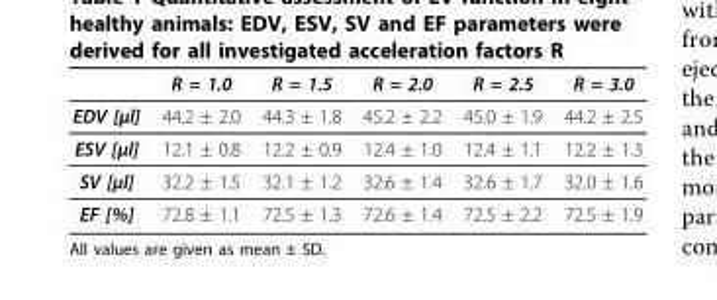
<table><thead><tr><td></td><td>R = 1.0</td><td>R = 1.5</td><td>R = 2.0</td><td>R = 2.5</td><td>R = 3.0</td></tr></thead><tbody><tr><td>EDV [μl]</td><td>44.2 ± 2.0</td><td>44.3 ± 1.8</td><td>45.2 ± 2.2</td><td>45.0 ± 1.9</td><td>44.2 ± 2.5</td></tr><tr><td>ESV [μl]</td><td>12.1 ± 0.8</td><td>12.2 ± 0.9</td><td>12.4 ± 1.0</td><td>12.4 ± 1.1</td><td>12.2 ± 1.3</td></tr><tr><td>SV [μl]</td><td>32.2 ± 1.5</td><td>32.1 ± 1.2</td><td>32.6 ± 1.4</td><td>32.6 ± 1.7</td><td>32.0 ± 1.6</td></tr><tr><td>EF [%]</td><td>72.8 ± 1.1</td><td>72.5 ± 1.3</td><td>72.6 ± 1.4</td><td>72.5 ± 2.2</td><td>72.5 ± 1.9</td></tr></tbody></table>